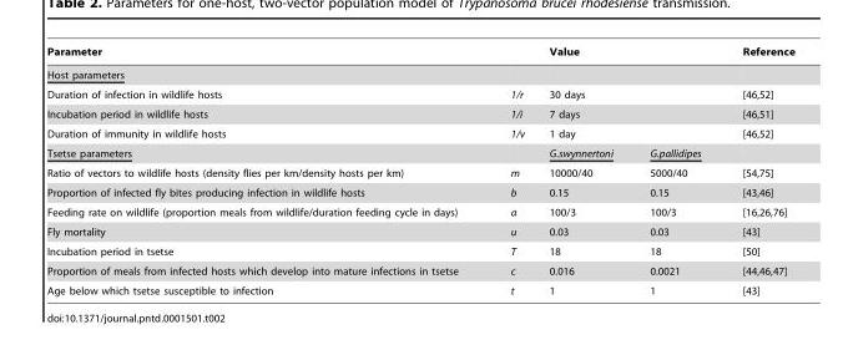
<table><thead><tr><td>Parameter</td><td></td><td colspan="2">Value</td><td>Reference</td></tr></thead><tbody><tr><td colspan="5">Host parameters</td></tr><tr><td>Duration of infection in wildlife hosts</td><td>1/r</td><td colspan="2">30 days</td><td>[46,52]</td></tr><tr><td>Incubation period in wildlife hosts</td><td>1/i</td><td colspan="2">7 days</td><td>[46,51]</td></tr><tr><td>Duration of immunity in wildlife hosts</td><td>1/v</td><td colspan="2">1 day</td><td>[46,52]</td></tr><tr><td>Tsetse parameters</td><td></td><td>G.swynnertoni</td><td>G.pallidipes</td><td></td></tr><tr><td>Ratio of vectors to wildlife hosts (density flies per km/density hosts per km)</td><td>m</td><td>10000/40</td><td>5000/40</td><td>[54,75]</td></tr><tr><td>Proportion of infected fly bites producing infection in wildlife hosts</td><td>b</td><td>0.15</td><td>0.15</td><td>[43,46]</td></tr><tr><td>Feeding rate on wildlife (proportion meals from wildlife/duration feeding cycle in days)</td><td>a</td><td>100/3</td><td>100/3</td><td>[16,26,76]</td></tr><tr><td>Fly mortality</td><td>u</td><td>0.03</td><td>0.03</td><td>[43]</td></tr><tr><td>Incubation period in tsetse</td><td>T</td><td>18</td><td>18</td><td>[50]</td></tr><tr><td>Proportion of meals from infected hosts which develop into mature infections in tsetse</td><td>c</td><td>0.016</td><td>0.0021</td><td>[44,46,47]</td></tr><tr><td>Age below which tsetse susceptible to infection</td><td>t</td><td>1</td><td>1</td><td>[43]</td></tr></tbody></table>